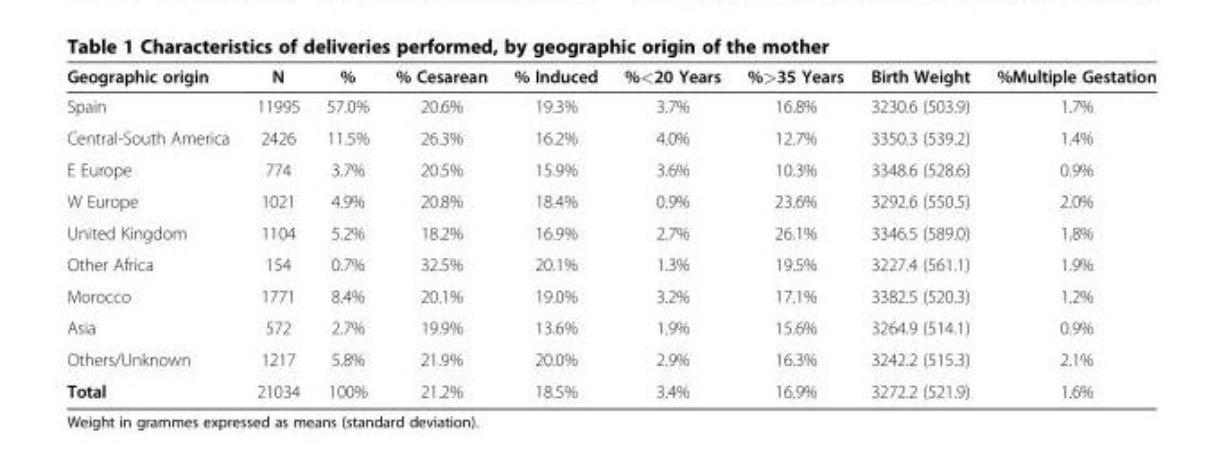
<table><thead><tr><td>Geographic origin</td><td>N</td><td>%</td><td>% Cesarean</td><td>% Induced</td><td>%&lt;20 Years</td><td>%&gt;35 Years</td><td>Birth Weight</td><td>%Multiple Gestation</td></tr></thead><tbody><tr><td>Spain</td><td>11995</td><td>57.0%</td><td>20.6%</td><td>19.3%</td><td>3.7%</td><td>16.8%</td><td>3230.6 (503.9)</td><td>1.7%</td></tr><tr><td>Central-South America</td><td>2426</td><td>11.5%</td><td>26.3%</td><td>16.2%</td><td>4.0%</td><td>12.7%</td><td>3350.3 (539.2)</td><td>1.4%</td></tr><tr><td>E Europe</td><td>774</td><td>3.7%</td><td>20.5%</td><td>15.9%</td><td>3.6%</td><td>10.3%</td><td>3348.6 (528.6)</td><td>0.9%</td></tr><tr><td>W Europe</td><td>1021</td><td>4.9%</td><td>20.8%</td><td>18.4%</td><td>0.9%</td><td>23.6%</td><td>3292.6 (550.5)</td><td>2.0%</td></tr><tr><td>United Kingdom</td><td>1104</td><td>5.2%</td><td>18.2%</td><td>16.9%</td><td>2.7%</td><td>26.1%</td><td>3346.5 (589.0)</td><td>1.8%</td></tr><tr><td>Other Africa</td><td>154</td><td>0.7%</td><td>32.5%</td><td>20.1%</td><td>1.3%</td><td>19.5%</td><td>3227.4 (561.1)</td><td>1.9%</td></tr><tr><td>Morocco</td><td>1771</td><td>8.4%</td><td>20.1%</td><td>19.0%</td><td>3.2%</td><td>17.1%</td><td>3382.5 (520.3)</td><td>1.2%</td></tr><tr><td>Asia</td><td>572</td><td>2.7%</td><td>19.9%</td><td>13.6%</td><td>1.9%</td><td>15.6%</td><td>3264.9 (514.1)</td><td>0.9%</td></tr><tr><td>Others/Unknown</td><td>1217</td><td>5.8%</td><td>21.9%</td><td>20.0%</td><td>2.9%</td><td>16.3%</td><td>3242.2 (515.3)</td><td>2.1%</td></tr><tr><td>Total</td><td>21034</td><td>100%</td><td>21.2%</td><td>18.5%</td><td>3.4%</td><td>16.9%</td><td>3272.2 (521.9)</td><td>1.6%</td></tr></tbody></table>